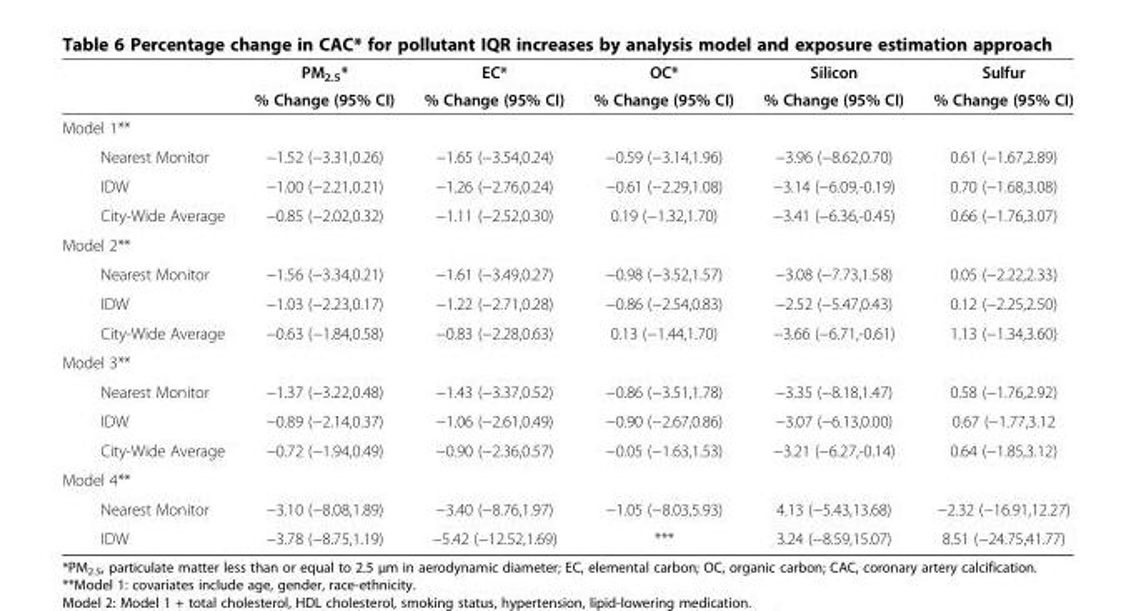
<table><thead><tr><td rowspan="2"></td><td rowspan="2">PM<sub>2.5</sub>* % Change (95% CI)</td><td rowspan="2">EC* % Change (95% CI)</td><td rowspan="2">OC* % Change (95% CI)</td><td rowspan="2">Silicon % Change (95% CI)</td><td rowspan="2">Sulfur % Change (95% CI)</td></tr><tr></tr></thead><tbody><tr><td colspan="6">Model 1**</td></tr><tr><td>Nearest Monitor</td><td>−1.52 (−3.31,0.26)</td><td>−1.65 (−3.54,0.24)</td><td>−0.59 (−3.14,1.96)</td><td>−3.96 (−8.62,0.70)</td><td>0.61 (−1.67,2.89)</td></tr><tr><td>IDW</td><td>−1.00 (−2.21,0.21)</td><td>−1.26 (−2.76,0.24)</td><td>−0.61 (−2.29,1.08)</td><td>−3.14 (−6.09,-0.19)</td><td>0.70 (−1.68,3.08)</td></tr><tr><td>City-Wide Average</td><td>−0.85 (−2.02,0.32)</td><td>−1.11 (−2.52,0.30)</td><td>0.19 (−1.32,1.70)</td><td>−3.41 (−6.36,-0.45)</td><td>0.66 (−1.76,3.07)</td></tr><tr><td colspan="6">Model 2**</td></tr><tr><td>Nearest Monitor</td><td>−1.56 (−3.34,0.21)</td><td>−1.61 (−3.49,0.27)</td><td>−0.98 (−3.52,1.57)</td><td>−3.08 (−7.73,1.58)</td><td>0.05 (−2.22,2.33)</td></tr><tr><td>IDW</td><td>−1.03 (−2.23,0.17)</td><td>−1.22 (−2.71,0.28)</td><td>−0.86 (−2.54,0.83)</td><td>−2.52 (−5.47,0.43)</td><td>0.12 (−2.25,2.50)</td></tr><tr><td>City-Wide Average</td><td>−0.63 (−1.84,0.58)</td><td>−0.83 (−2.28,0.63)</td><td>0.13 (−1.44,1.70)</td><td>−3.66 (−6.71,-0.61)</td><td>1.13 (−1.34,3.60)</td></tr><tr><td colspan="6">Model 3**</td></tr><tr><td>Nearest Monitor</td><td>−1.37 (−3.22,0.48)</td><td>−1.43 (−3.37,0.52)</td><td>−0.86 (−3.51,1.78)</td><td>−3.35 (−8.18,1.47)</td><td>0.58 (−1.76,2.92)</td></tr><tr><td>IDW</td><td>−0.89 (−2.14,0.37)</td><td>−1.06 (−2.61,0.49)</td><td>−0.90 (−2.67,0.86)</td><td>−3.07 (−6.13,0.00)</td><td>0.67 (−1.77,3.12</td></tr><tr><td>City-Wide Average</td><td>−0.72 (−1.94,0.49)</td><td>−0.90 (−2.36,0.57)</td><td>−0.05 (−1.63,1.53)</td><td>−3.21 (−6.27,-0.14)</td><td>0.64 (−1.85,3.12)</td></tr><tr><td colspan="6">Model 4**</td></tr><tr><td>Nearest Monitor</td><td>−3.10 (−8.08,1.89)</td><td>−3.40 (−8.76,1.97)</td><td>−1.05 (−8.03,5.93)</td><td>4.13 (−5.43,13.68)</td><td>−2.32 (−16.91,12.27)</td></tr><tr><td>IDW</td><td>−3.78 (−8.75,1.19)</td><td>−5.42 (−12.52,1.69)</td><td>***</td><td>3.24 (−8.59,15.07)</td><td>8.51 (−24.75,41.77)</td></tr></tbody></table>